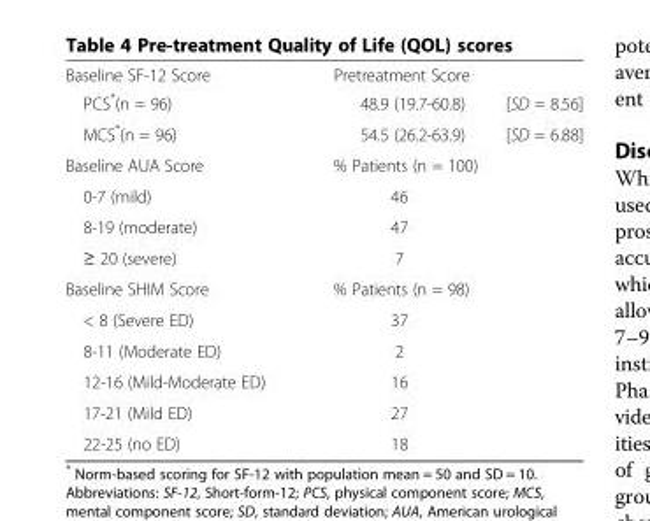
<table><thead><tr><td>Baseline SF-12 Score</td><td>Pretreatment Score</td><td></td></tr></thead><tbody><tr><td>PCS*(n = 96)</td><td>48.9 (19.7-60.8)</td><td>[SD = 8.56]</td></tr><tr><td>MCS*(n = 96)</td><td>54.5 (26.2-63.9)</td><td>[SD = 6.88]</td></tr><tr><td>Baseline AUA Score</td><td>% Patients (n = 100)</td><td></td></tr><tr><td>0-7 (mild)</td><td>46</td><td></td></tr><tr><td>8-19 (moderate)</td><td>47</td><td></td></tr><tr><td>≥ 20 (severe)</td><td>7</td><td></td></tr><tr><td>Baseline SHIM Score</td><td>% Patients (n = 98)</td><td></td></tr><tr><td>&lt; 8 (Severe ED)</td><td>37</td><td></td></tr><tr><td>8-11 (Moderate ED)</td><td>2</td><td></td></tr><tr><td>12-16 (Mild-Moderate ED)</td><td>16</td><td></td></tr><tr><td>17-21 (Mild ED)</td><td>27</td><td></td></tr><tr><td>22-25 (no ED)</td><td>18</td><td></td></tr></tbody></table>